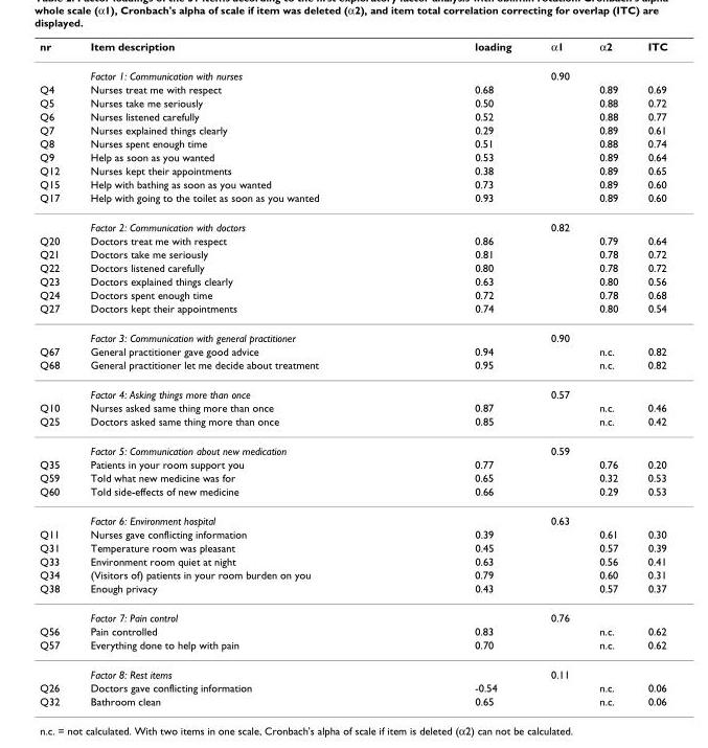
<table><thead><tr><td>nr</td><td>Item description</td><td>loading</td><td>α1</td><td>α2</td><td>ITC</td></tr></thead><tbody><tr><td></td><td>Factor 1: Communication with nurses</td><td></td><td>0.90</td><td></td><td></td></tr><tr><td>Q4</td><td>Nurses treat me with respect</td><td>0.68</td><td></td><td>0.89</td><td>0.69</td></tr><tr><td>Q5</td><td>Nurses take me seriously</td><td>0.50</td><td></td><td>0.88</td><td>0.72</td></tr><tr><td>Q6</td><td>Nurses listened carefully</td><td>0.52</td><td></td><td>0.88</td><td>0.77</td></tr><tr><td>Q7</td><td>Nurses explained things clearly</td><td>0.29</td><td></td><td>0.89</td><td>0.61</td></tr><tr><td>Q8</td><td>Nurses spent enough time</td><td>0.51</td><td></td><td>0.88</td><td>0.74</td></tr><tr><td>Q9</td><td>Help as soon as you wanted</td><td>0.53</td><td></td><td>0.89</td><td>0.64</td></tr><tr><td>Q12</td><td>Nurses kept their appointments</td><td>0.38</td><td></td><td>0.89</td><td>0.65</td></tr><tr><td>Q15</td><td>Help with bathing as soon as you wanted</td><td>0.73</td><td></td><td>0.89</td><td>0.60</td></tr><tr><td rowspan="2">Q17</td><td>Help with going to the toilet as soon as you wanted</td><td>0.93</td><td></td><td>0.89</td><td>0.60</td></tr><tr><td>Factor 2: Communication with doctors</td><td></td><td>0.82</td><td></td><td></td></tr><tr><td>Q20</td><td>Doctors treat me with respect</td><td>0.86</td><td></td><td>0.79</td><td>0.64</td></tr><tr><td>Q21</td><td>Doctors take me seriously</td><td>0.81</td><td></td><td>0.78</td><td>0.72</td></tr><tr><td>Q22</td><td>Doctors listened carefully</td><td>0.80</td><td></td><td>0.78</td><td>0.72</td></tr><tr><td>Q23</td><td>Doctors explained things clearly</td><td>0.63</td><td></td><td>0.80</td><td>0.56</td></tr><tr><td>Q24</td><td>Doctors spent enough time</td><td>0.72</td><td></td><td>0.78</td><td>0.68</td></tr><tr><td rowspan="2">Q27</td><td>Doctors kept their appointments</td><td>0.74</td><td></td><td>0.80</td><td>0.54</td></tr><tr><td>Factor 3: Communication with general practitioner</td><td></td><td>0.90</td><td></td><td></td></tr><tr><td>Q67</td><td>General practitioner gave good advice</td><td>0.94</td><td></td><td>n.c.</td><td>0.82</td></tr><tr><td rowspan="2">Q68</td><td>General practitioner let me decide about treatment</td><td>0.95</td><td></td><td>n.c.</td><td>0.82</td></tr><tr><td>Factor 4: Asking things more than once</td><td></td><td>0.57</td><td></td><td></td></tr><tr><td>Q10</td><td>Nurses asked same thing more than once</td><td>0.87</td><td></td><td>n.c.</td><td>0.46</td></tr><tr><td rowspan="2">Q25</td><td>Doctors asked same thing more than once</td><td>0.85</td><td></td><td>n.c.</td><td>0.42</td></tr><tr><td>Factor 5: Communication about new medication</td><td></td><td>0.59</td><td></td><td></td></tr><tr><td>Q35</td><td>Patients in your room support you</td><td>0.77</td><td></td><td>0.76</td><td>0.20</td></tr><tr><td>Q59</td><td>Told what new medicine was for</td><td>0.65</td><td></td><td>0.32</td><td>0.53</td></tr><tr><td rowspan="2">Q60</td><td>Told side-effects of new medicine</td><td>0.66</td><td></td><td>0.29</td><td>0.53</td></tr><tr><td>Factor 6: Environment hospital</td><td></td><td>0.63</td><td></td><td></td></tr><tr><td>Q11</td><td>Nurses gave conflicting information</td><td>0.39</td><td></td><td>0.61</td><td>0.30</td></tr><tr><td>Q31</td><td>Temperature room was pleasant</td><td>0.45</td><td></td><td>0.57</td><td>0.39</td></tr><tr><td>Q33</td><td>Environment room quiet at night</td><td>0.63</td><td></td><td>0.56</td><td>0.41</td></tr><tr><td>Q34</td><td>(Visitors of) patients in your room burden on you</td><td>0.79</td><td></td><td>0.60</td><td>0.31</td></tr><tr><td rowspan="2">Q38</td><td>Enough privacy</td><td>0.43</td><td></td><td>0.57</td><td>0.37</td></tr><tr><td>Factor 7: Pain control</td><td></td><td>0.76</td><td></td><td></td></tr><tr><td>Q56</td><td>Pain controlled</td><td>0.83</td><td></td><td>n.c.</td><td>0.62</td></tr><tr><td rowspan="2">Q57</td><td>Everything done to help with pain</td><td>0.70</td><td></td><td>n.c.</td><td>0.62</td></tr><tr><td>Factor 8: Rest items</td><td></td><td>0.11</td><td></td><td></td></tr><tr><td>Q26</td><td>Doctors gave conflicting information</td><td>-0.54</td><td></td><td>n.c.</td><td>0.06</td></tr><tr><td>Q32</td><td>Bathroom clean</td><td>0.65</td><td></td><td>n.c.</td><td>0.06</td></tr></tbody></table>